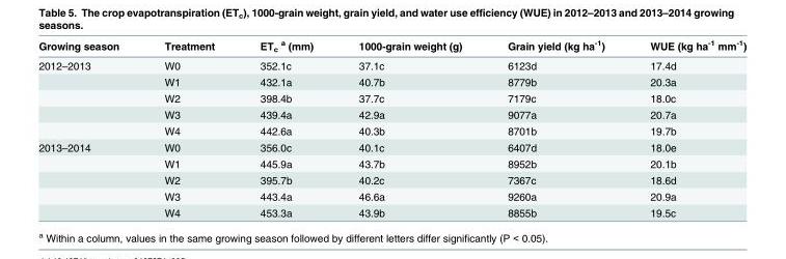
<table><thead><tr><td>Growing season</td><td>Treatment</td><td>ET<sub>c</sub> <sup>a</sup> (mm)</td><td>1000-grain weight (g)</td><td>Grain yield (kg ha<sup>-1</sup>)</td><td>WUE (kg ha<sup>-1</sup> mm<sup>-1</sup>)</td></tr></thead><tbody><tr><td rowspan="5">2012–2013</td><td>W0</td><td>352.1c</td><td>37.1c</td><td>6123d</td><td>17.4d</td></tr><tr><td>W1</td><td>432.1a</td><td>40.7b</td><td>8779b</td><td>20.3a</td></tr><tr><td>W2</td><td>398.4b</td><td>37.7c</td><td>7179c</td><td>18.0c</td></tr><tr><td>W3</td><td>439.4a</td><td>42.9a</td><td>9077a</td><td>20.7a</td></tr><tr><td>W4</td><td>442.6a</td><td>40.3b</td><td>8701b</td><td>19.7b</td></tr><tr><td rowspan="5">2013–2014</td><td>W0</td><td>356.0c</td><td>40.1c</td><td>6407d</td><td>18.0e</td></tr><tr><td>W1</td><td>445.9a</td><td>43.7b</td><td>8952b</td><td>20.1b</td></tr><tr><td>W2</td><td>395.7b</td><td>40.2c</td><td>7367c</td><td>18.6d</td></tr><tr><td>W3</td><td>443.4a</td><td>46.6a</td><td>9260a</td><td>20.9a</td></tr><tr><td>W4</td><td>453.3a</td><td>43.9b</td><td>8855b</td><td>19.5c</td></tr></tbody></table>